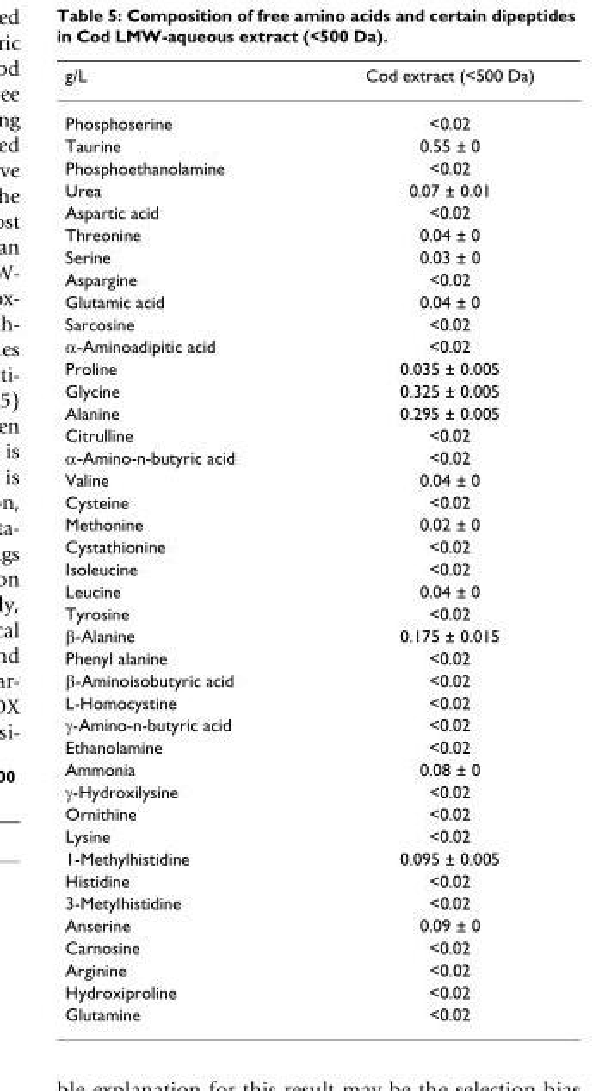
<table><thead><tr><td>g/L</td><td>Cod extract (&lt;500 Da)</td></tr></thead><tbody><tr><td>Phosphoserine</td><td>&lt;0.02</td></tr><tr><td>Taurine</td><td>0.55 ± 0</td></tr><tr><td>Phosphoethanolamine</td><td>&lt;0.02</td></tr><tr><td>Urea</td><td>0.07 ± 0.01</td></tr><tr><td>Aspartic acid</td><td>&lt;0.02</td></tr><tr><td>Threonine</td><td>0.04 ± 0</td></tr><tr><td>Serine</td><td>0.03 ± 0</td></tr><tr><td>Aspargine</td><td>&lt;0.02</td></tr><tr><td>Glutamic acid</td><td>0.04 ± 0</td></tr><tr><td>Sarcosine</td><td>&lt;0.02</td></tr><tr><td>α-Aminoadipitic acid</td><td>&lt;0.02</td></tr><tr><td>Proline</td><td>0.035 ± 0.005</td></tr><tr><td>Glycine</td><td>0.325 ± 0.005</td></tr><tr><td>Alanine</td><td>0.295 ± 0.005</td></tr><tr><td>Citrulline</td><td>&lt;0.02</td></tr><tr><td>α-Amino-n-butyric acid</td><td>&lt;0.02</td></tr><tr><td>Valine</td><td>0.04 ± 0</td></tr><tr><td>Cysteine</td><td>&lt;0.02</td></tr><tr><td>Methonine</td><td>0.02 ± 0</td></tr><tr><td>Cystathionine</td><td>&lt;0.02</td></tr><tr><td>Isoleucine</td><td>&lt;0.02</td></tr><tr><td>Leucine</td><td>0.04 ± 0</td></tr><tr><td>Tyrosine</td><td>&lt;0.02</td></tr><tr><td>β-Alanine</td><td>0.175 ± 0.015</td></tr><tr><td>Phenyl alanine</td><td>&lt;0.02</td></tr><tr><td>β-Aminoisobutyric acid</td><td>&lt;0.02</td></tr><tr><td>L-Homocystine</td><td>&lt;0.02</td></tr><tr><td>γ-Amino-n-butyric acid</td><td>&lt;0.02</td></tr><tr><td>Ethanolamine</td><td>&lt;0.02</td></tr><tr><td>Ammonia</td><td>0.08 ± 0</td></tr><tr><td>γ-Hydroxilysine</td><td>&lt;0.02</td></tr><tr><td>Ornithine</td><td>&lt;0.02</td></tr><tr><td>Lysine</td><td>&lt;0.02</td></tr><tr><td>1-Methylhistidine</td><td>0.095 ± 0.005</td></tr><tr><td>Histidine</td><td>&lt;0.02</td></tr><tr><td>3-Metylhistidine</td><td>&lt;0.02</td></tr><tr><td>Anserine</td><td>0.09 ± 0</td></tr><tr><td>Carnosine</td><td>&lt;0.02</td></tr><tr><td>Arginine</td><td>&lt;0.02</td></tr><tr><td>Hydroxiproline</td><td>&lt;0.02</td></tr><tr><td>Glutamine</td><td>&lt;0.02</td></tr></tbody></table>